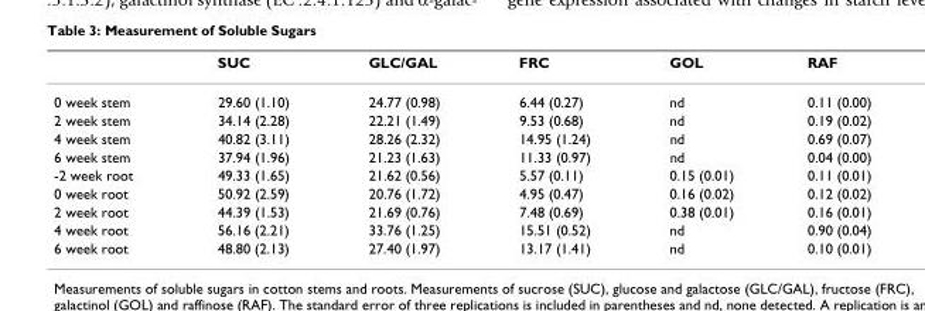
<table><thead><tr><td></td><td>SUC</td><td>GLC/GAL</td><td>FRC</td><td>GOL</td><td>RAF</td></tr></thead><tbody><tr><td>0 week stem</td><td>29.60 (1.10)</td><td>24.77 (0.98)</td><td>6.44 (0.27)</td><td>nd</td><td>0.11 (0.00)</td></tr><tr><td>2 week stem</td><td>34.14 (2.28)</td><td>22.21 (1.49)</td><td>9.53 (0.68)</td><td>nd</td><td>0.19 (0.02)</td></tr><tr><td>4 week stem</td><td>40.82 (3.11)</td><td>28.26 (2.32)</td><td>14.95 (1.24)</td><td>nd</td><td>0.69 (0.07)</td></tr><tr><td>6 week stem</td><td>37.94 (1.96)</td><td>21.23 (1.63)</td><td>11.33 (0.97)</td><td>nd</td><td>0.04 (0.00)</td></tr><tr><td>-2 week root</td><td>49.33 (1.65)</td><td>21.62 (0.56)</td><td>5.57 (0.11)</td><td>0.15 (0.01)</td><td>0.11 (0.01)</td></tr><tr><td>0 week root</td><td>50.92 (2.59)</td><td>20.76 (1.72)</td><td>4.95 (0.47)</td><td>0.16 (0.02)</td><td>0.12 (0.02)</td></tr><tr><td>2 week root</td><td>44.39 (1.53)</td><td>21.69 (0.76)</td><td>7.48 (0.69)</td><td>0.38 (0.01)</td><td>0.16 (0.01)</td></tr><tr><td>4 week root</td><td>56.16 (2.21)</td><td>33.76 (1.25)</td><td>15.51 (0.52)</td><td>nd</td><td>0.90 (0.04)</td></tr><tr><td>6 week root</td><td>48.80 (2.13)</td><td>27.40 (1.97)</td><td>13.17 (1.41)</td><td>nd</td><td>0.10 (0.01)</td></tr></tbody></table>